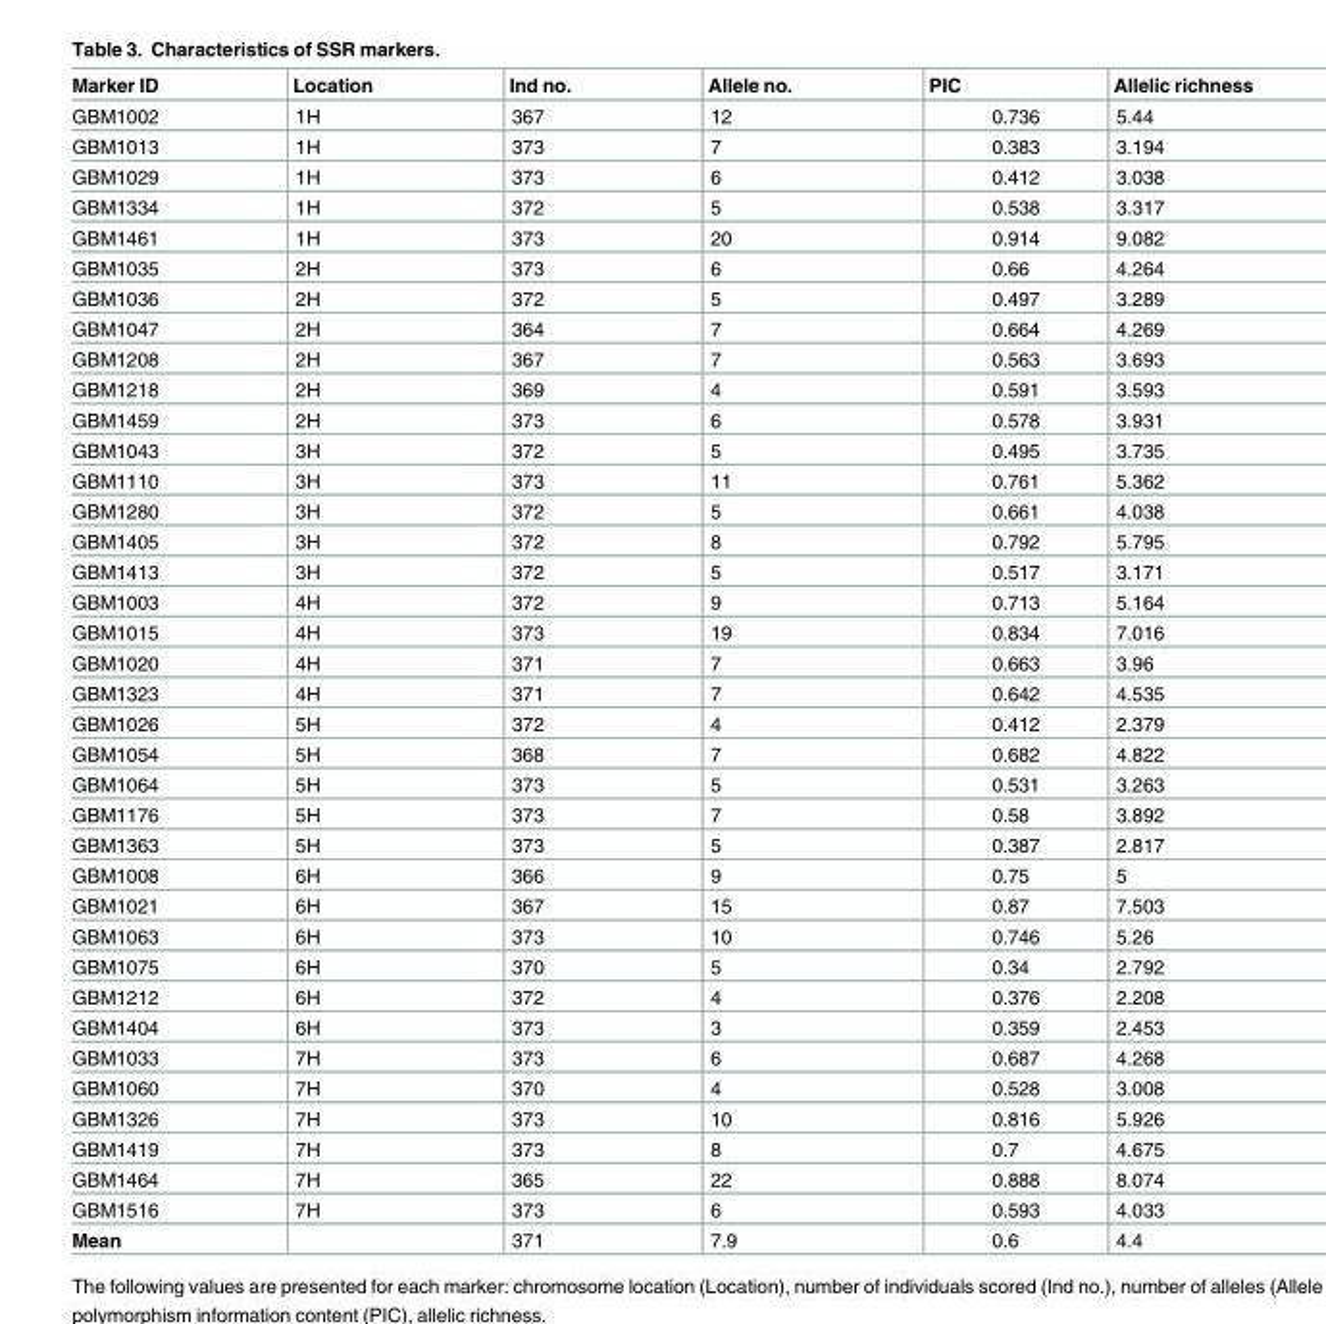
<table><thead><tr><td>Marker ID</td><td>Location</td><td>Ind no.</td><td>Allele no.</td><td>PIC</td><td>Allelic richness</td></tr></thead><tbody><tr><td>GBM1002</td><td>1H</td><td>367</td><td>12</td><td>0.736</td><td>5.44</td></tr><tr><td>GBM1013</td><td>1H</td><td>373</td><td>7</td><td>0.383</td><td>3.194</td></tr><tr><td>GBM1029</td><td>1H</td><td>373</td><td>6</td><td>0.412</td><td>3.038</td></tr><tr><td>GBM1334</td><td>1H</td><td>372</td><td>5</td><td>0.538</td><td>3.317</td></tr><tr><td>GBM1461</td><td>1H</td><td>373</td><td>20</td><td>0.914</td><td>9.082</td></tr><tr><td>GBM1035</td><td>2H</td><td>373</td><td>6</td><td>0.66</td><td>4.264</td></tr><tr><td>GBM1036</td><td>2H</td><td>372</td><td>5</td><td>0.497</td><td>3.289</td></tr><tr><td>GBM1047</td><td>2H</td><td>364</td><td>7</td><td>0.664</td><td>4.269</td></tr><tr><td>GBM1208</td><td>2H</td><td>367</td><td>7</td><td>0.563</td><td>3.693</td></tr><tr><td>GBM1218</td><td>2H</td><td>369</td><td>4</td><td>0.591</td><td>3.593</td></tr><tr><td>GBM1459</td><td>2H</td><td>373</td><td>6</td><td>0.578</td><td>3.931</td></tr><tr><td>GBM1043</td><td>3H</td><td>372</td><td>5</td><td>0.495</td><td>3.735</td></tr><tr><td>GBM1110</td><td>3H</td><td>373</td><td>11</td><td>0.761</td><td>5.362</td></tr><tr><td>GBM1280</td><td>3H</td><td>372</td><td>5</td><td>0.661</td><td>4.038</td></tr><tr><td>GBM1405</td><td>3H</td><td>372</td><td>8</td><td>0.792</td><td>5.795</td></tr><tr><td>GBM1413</td><td>3H</td><td>372</td><td>5</td><td>0.517</td><td>3.171</td></tr><tr><td>GBM1003</td><td>4H</td><td>372</td><td>9</td><td>0.713</td><td>5.164</td></tr><tr><td>GBM1015</td><td>4H</td><td>373</td><td>19</td><td>0.834</td><td>7.016</td></tr><tr><td>GBM1020</td><td>4H</td><td>371</td><td>7</td><td>0.663</td><td>3.96</td></tr><tr><td>GBM1323</td><td>4H</td><td>371</td><td>7</td><td>0.642</td><td>4.535</td></tr><tr><td>GBM1026</td><td>5H</td><td>372</td><td>4</td><td>0.412</td><td>2.379</td></tr><tr><td>GBM1054</td><td>5H</td><td>368</td><td>7</td><td>0.682</td><td>4.822</td></tr><tr><td>GBM1064</td><td>5H</td><td>373</td><td>5</td><td>0.531</td><td>3.263</td></tr><tr><td>GBM1176</td><td>5H</td><td>373</td><td>7</td><td>0.58</td><td>3.892</td></tr><tr><td>GBM1363</td><td>5H</td><td>373</td><td>5</td><td>0.387</td><td>2.817</td></tr><tr><td>GBM1008</td><td>6H</td><td>366</td><td>9</td><td>0.75</td><td>5</td></tr><tr><td>GBM1021</td><td>6H</td><td>367</td><td>15</td><td>0.87</td><td>7.503</td></tr><tr><td>GBM1063</td><td>6H</td><td>373</td><td>10</td><td>0.746</td><td>5.26</td></tr><tr><td>GBM1075</td><td>6H</td><td>370</td><td>5</td><td>0.34</td><td>2.792</td></tr><tr><td>GBM1212</td><td>6H</td><td>372</td><td>4</td><td>0.376</td><td>2.208</td></tr><tr><td>GBM1404</td><td>6H</td><td>373</td><td>3</td><td>0.359</td><td>2.453</td></tr><tr><td>GBM1033</td><td>7H</td><td>373</td><td>6</td><td>0.687</td><td>4.268</td></tr><tr><td>GBM1060</td><td>7H</td><td>370</td><td>4</td><td>0.528</td><td>3.008</td></tr><tr><td>GBM1326</td><td>7H</td><td>373</td><td>10</td><td>0.816</td><td>5.926</td></tr><tr><td>GBM1419</td><td>7H</td><td>373</td><td>8</td><td>0.7</td><td>4.675</td></tr><tr><td>GBM1464</td><td>7H</td><td>365</td><td>22</td><td>0.888</td><td>8.074</td></tr><tr><td>GBM1516</td><td>7H</td><td>373</td><td>6</td><td>0.593</td><td>4.033</td></tr><tr><td>Mean</td><td></td><td>371</td><td>7.9</td><td>0.6</td><td>4.4</td></tr></tbody></table>